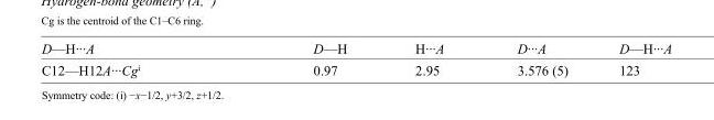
<table><tbody><tr><td>D—H···A</td><td>D—H</td><td>H···A</td><td>D···A</td><td>D—H···A</td></tr><tr><td>C12—H12A···Cg<sup>i</sup></td><td>0.97</td><td>2.95</td><td>3.576 (5)</td><td>123</td></tr></tbody></table>